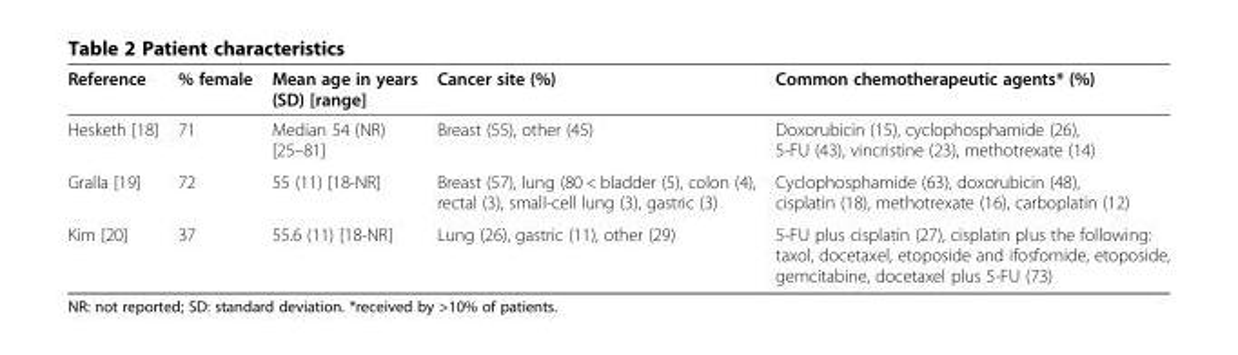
<table><thead><tr><td>Reference</td><td>% female</td><td>Mean age in years (SD) [range]</td><td>Cancer site (%)</td><td>Common chemotherapeutic agents* (%)</td></tr></thead><tbody><tr><td>Hesketh [18]</td><td>71</td><td>Median 54 (NR) [25–81]</td><td>Breast (55), other (45)</td><td>Doxorubicin (15), cyclophosphamide (26), 5-FU (43), vincristine (23), methotrexate (14)</td></tr><tr><td>Gralla [19]</td><td>72</td><td>55 (11) [18-NR]</td><td>Breast (57), lung (80 &lt; bladder (5), colon (4), rectal (3), small-cell lung (3), gastric (3)</td><td>Cyclophosphamide (63), doxorubicin (48), cisplatin (18), methotrexate (16), carboplatin (12)</td></tr><tr><td>Kim [20]</td><td>37</td><td>55.6 (11) [18-NR]</td><td>Lung (26), gastric (11), other (29)</td><td>5-FU plus cisplatin (27), cisplatin plus the following: taxol, docetaxel, etoposide and ifosfomide, etoposide, gemcitabine, docetaxel plus 5-FU (73)</td></tr></tbody></table>